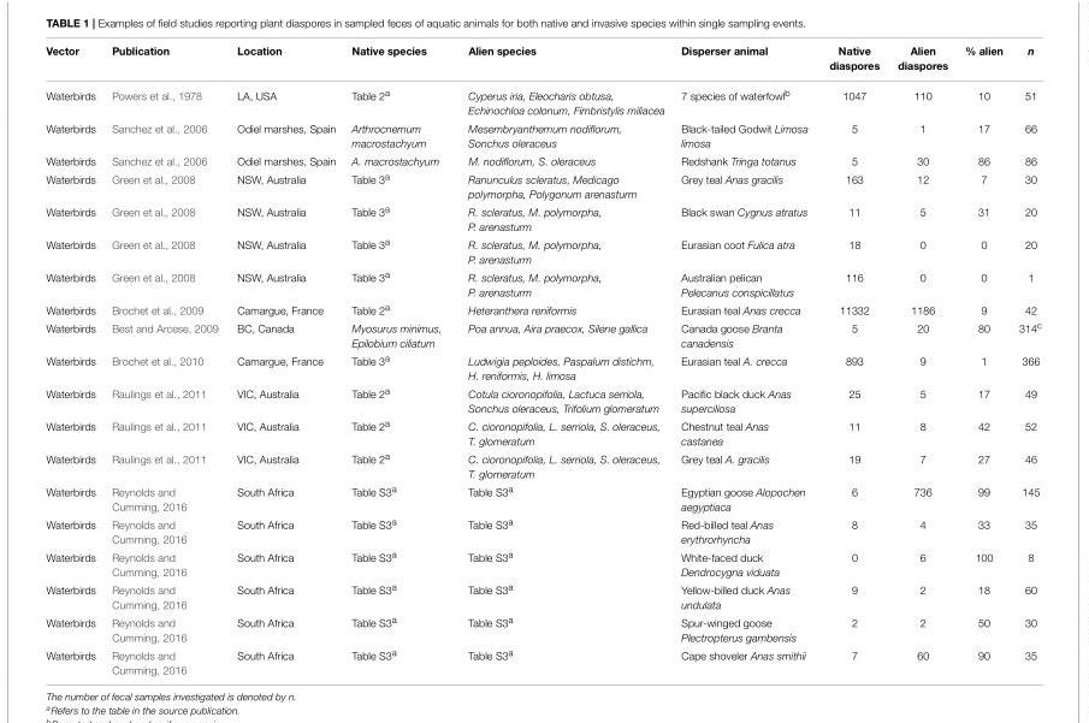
<table><thead><tr><td>Vector</td><td>Publication</td><td>Location</td><td>Native species</td><td>Alien species</td><td>Disperser animal</td><td>Native diaspores</td><td>Alien diaspores</td><td>% alien</td><td>n</td></tr></thead><tbody><tr><td>Waterbirds</td><td>Powers et al., 1978</td><td>LA, USA</td><td>Table 2<sup>a</sup></td><td>Cyperus iria, Eleocharis obtusa, Echinochloa colonum, Fimbristylis miliacea</td><td>7 species of waterfowl<sup>b</sup></td><td>1047</td><td>110</td><td>10</td><td>51</td></tr><tr><td>Waterbirds</td><td>Sanchez et al., 2006</td><td>Odiel marshes, Spain</td><td>Arthrocnemum macrostachyum</td><td>Mesembryanthemum nodiflorum, Sonchus oleraceus</td><td>Black-tailed Godwit Limosa limosa</td><td>5</td><td>1</td><td>17</td><td>66</td></tr><tr><td>Waterbirds</td><td>Sanchez et al., 2006</td><td>Odiel marshes, Spain</td><td>A. macrostachyum</td><td>M. nodiflorum, S. oleraceus</td><td>Redshank Tringa totanus</td><td>5</td><td>30</td><td>86</td><td>86</td></tr><tr><td>Waterbirds</td><td>Green et al., 2008</td><td>NSW, Australia</td><td>Table 3<sup>a</sup></td><td>Ranunculus scleratus, Medicago polymorpha, Polygonum arenasturm</td><td>Grey teal Anas gracilis</td><td>163</td><td>12</td><td>7</td><td>30</td></tr><tr><td>Waterbirds</td><td>Green et al., 2008</td><td>NSW, Australia</td><td>Table 3<sup>a</sup></td><td>R. scleratus, M. polymorpha, P. arenasturm</td><td>Black swan Cygnus atratus</td><td>11</td><td>5</td><td>31</td><td>20</td></tr><tr><td>Waterbirds</td><td>Green et al., 2008</td><td>NSW, Australia</td><td>Table 3<sup>a</sup></td><td>R. scleratus, M. polymorpha, P. arenasturm</td><td>Eurasian coot Fulica atra</td><td>18</td><td>0</td><td>0</td><td>20</td></tr><tr><td>Waterbirds</td><td>Green et al., 2008</td><td>NSW, Australia</td><td>Table 3<sup>a</sup></td><td>R. scleratus, M. polymorpha, P. arenasturm</td><td>Australian pelican Pelecanus conspicillatus</td><td>116</td><td>0</td><td>0</td><td>1</td></tr><tr><td>Waterbirds</td><td>Brochet et al., 2009</td><td>Camargue, France</td><td>Table 2<sup>a</sup></td><td>Heteranthera reniformis</td><td>Eurasian teal Anas crecca</td><td>11332</td><td>1186</td><td>9</td><td>42</td></tr><tr><td>Waterbirds</td><td>Best and Arcese, 2009</td><td>BC, Canada</td><td>Myosurus minimus, Epilobium ciliatum</td><td>Poa annua, Aira praecox, Silene gallica</td><td>Canada goose Branta canadensis</td><td>5</td><td>20</td><td>80</td><td>314<sup>c</sup></td></tr><tr><td>Waterbirds</td><td>Brochet et al., 2010</td><td>Camargue, France</td><td>Table 3<sup>a</sup></td><td>Ludwigia peploides, Paspalum distichm, H. reniformis, H. limosa</td><td>Eurasian teal A. crecca</td><td>893</td><td>9</td><td>1</td><td>366</td></tr><tr><td>Waterbirds</td><td>Raulings et al., 2011</td><td>VIC, Australia</td><td>Table 2<sup>a</sup></td><td>Cotula cioronopifolia, Lactuca serriola, Sonchus oleraceus, Trifolium glomeratum</td><td>Pacific black duck Anas superciliosa</td><td>25</td><td>5</td><td>17</td><td>49</td></tr><tr><td>Waterbirds</td><td>Raulings et al., 2011</td><td>VIC, Australia</td><td>Table 2<sup>a</sup></td><td>C. cioronopifolia, L. serriola, S. oleraceus, T. glomeratum</td><td>Chestnut teal Anas castanea</td><td>11</td><td>8</td><td>42</td><td>52</td></tr><tr><td>Waterbirds</td><td>Raulings et al., 2011</td><td>VIC, Australia</td><td>Table 2<sup>a</sup></td><td>C. cioronopifolia, L. serriola, S. oleraceus, T. glomeratum</td><td>Grey teal A. gracilis</td><td>19</td><td>7</td><td>27</td><td>46</td></tr><tr><td>Waterbirds</td><td>Reynolds and Cumming, 2016</td><td>South Africa</td><td>Table S3<sup>a</sup></td><td>Table S3<sup>a</sup></td><td>Egyptian goose Alopochen aegyptiaca</td><td>6</td><td>736</td><td>99</td><td>145</td></tr><tr><td>Waterbirds</td><td>Reynolds and Cumming, 2016</td><td>South Africa</td><td>Table S3<sup>a</sup></td><td>Table S3<sup>a</sup></td><td>Red-billed teal Anas erythrorhyncha</td><td>8</td><td>4</td><td>33</td><td>35</td></tr><tr><td>Waterbirds</td><td>Reynolds and Cumming, 2016</td><td>South Africa</td><td>Table S3<sup>a</sup></td><td>Table S3<sup>a</sup></td><td>White-faced duck Dendrocygna viduata</td><td>0</td><td>6</td><td>100</td><td>8</td></tr><tr><td>Waterbirds</td><td>Reynolds and Cumming, 2016</td><td>South Africa</td><td>Table S3<sup>a</sup></td><td>Table S3<sup>a</sup></td><td>Yellow-billed duck Anas undulata</td><td>9</td><td>2</td><td>18</td><td>60</td></tr><tr><td>Waterbirds</td><td>Reynolds and Cumming, 2016</td><td>South Africa</td><td>Table S3<sup>a</sup></td><td>Table S3<sup>a</sup></td><td>Spur-winged goose Plectropterus gambensis</td><td>2</td><td>2</td><td>50</td><td>30</td></tr><tr><td>Waterbirds</td><td>Reynolds and Cumming, 2016</td><td>South Africa</td><td>Table S3<sup>a</sup></td><td>Table S3<sup>a</sup></td><td>Cape shoveler Anas smithii</td><td>7</td><td>60</td><td>90</td><td>35</td></tr></tbody></table>